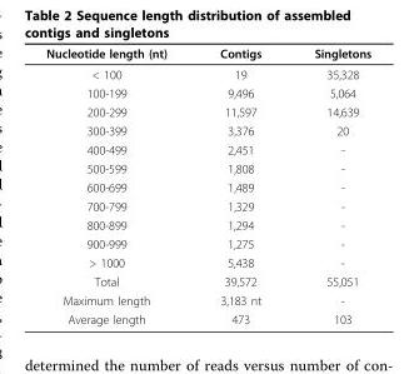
<table><thead><tr><td>Nucleotide length (nt)</td><td>Contigs</td><td>Singletons</td></tr></thead><tbody><tr><td>&lt; 100</td><td>19</td><td>35,328</td></tr><tr><td>100-199</td><td>9,496</td><td>5,064</td></tr><tr><td>200-299</td><td>11,597</td><td>14,639</td></tr><tr><td>300-399</td><td>3,376</td><td>20</td></tr><tr><td>400-499</td><td>2,451</td><td>-</td></tr><tr><td>500-599</td><td>1,808</td><td>-</td></tr><tr><td>600-699</td><td>1,489</td><td>-</td></tr><tr><td>700-799</td><td>1,329</td><td>-</td></tr><tr><td>800-899</td><td>1,294</td><td>-</td></tr><tr><td>900-999</td><td>1,275</td><td>-</td></tr><tr><td>&gt; 1000</td><td>5,438</td><td>-</td></tr><tr><td>Total</td><td>39,572</td><td>55,051</td></tr><tr><td>Maximum length</td><td>3,183 nt</td><td>-</td></tr><tr><td>Average length</td><td>473</td><td>103</td></tr></tbody></table>